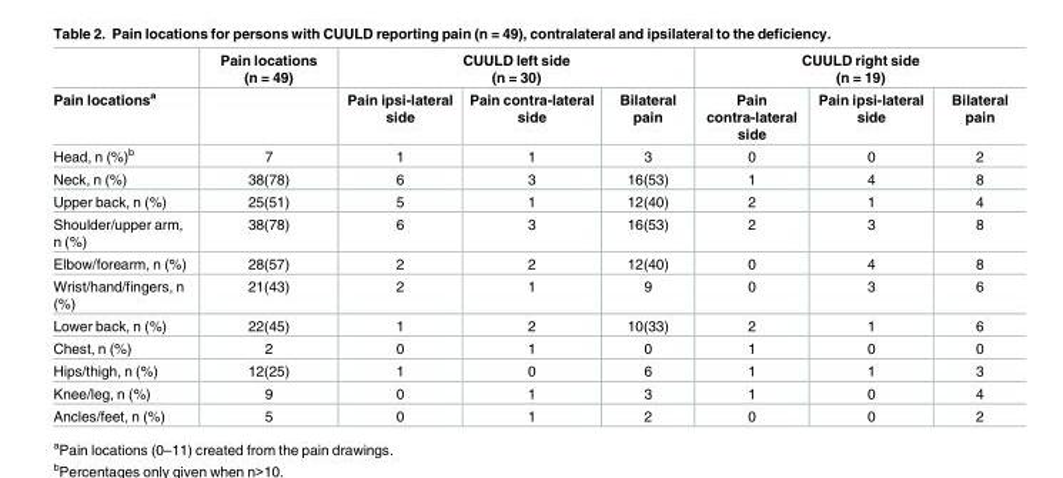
<table><thead><tr><td rowspan="2">Pain locations<sup>a</sup></td><td rowspan="2">Pain locations (n = 49)</td><td colspan="3">CUULD left side (n = 30)</td><td colspan="3">CUULD right side (n = 19)</td></tr><tr><td>Pain ipsi-lateral side</td><td>Pain contra-lateral side</td><td>Bilateral pain</td><td>Pain contra-lateral side</td><td>Pain ipsi-lateral side</td><td>Bilateral pain</td></tr></thead><tbody><tr><td>Head, n (%)<sup>b</sup></td><td>7</td><td>1</td><td>1</td><td>3</td><td>0</td><td>0</td><td>2</td></tr><tr><td>Neck, n (%)</td><td>38(78)</td><td>6</td><td>3</td><td>16(53)</td><td>1</td><td>4</td><td>8</td></tr><tr><td>Upper back, n (%)</td><td>25(51)</td><td>5</td><td>1</td><td>12(40)</td><td>2</td><td>1</td><td>4</td></tr><tr><td>Shoulder/upper arm, n (%)</td><td>38(78)</td><td>6</td><td>3</td><td>16(53)</td><td>2</td><td>3</td><td>8</td></tr><tr><td>Elbow/forearm, n (%)</td><td>28(57)</td><td>2</td><td>2</td><td>12(40)</td><td>0</td><td>4</td><td>8</td></tr><tr><td>Wrist/hand/fingers, n (%)</td><td>21(43)</td><td>2</td><td>1</td><td>9</td><td>0</td><td>3</td><td>6</td></tr><tr><td>Lower back, n (%)</td><td>22(45)</td><td>1</td><td>2</td><td>10(33)</td><td>2</td><td>1</td><td>6</td></tr><tr><td>Chest, n (%)</td><td>2</td><td>0</td><td>1</td><td>0</td><td>1</td><td>0</td><td>0</td></tr><tr><td>Hips/thigh, n (%)</td><td>12(25)</td><td>1</td><td>0</td><td>6</td><td>1</td><td>1</td><td>3</td></tr><tr><td>Knee/leg, n (%)</td><td>9</td><td>0</td><td>1</td><td>3</td><td>1</td><td>0</td><td>4</td></tr><tr><td>Ancles/feet, n (%)</td><td>5</td><td>0</td><td>1</td><td>2</td><td>0</td><td>0</td><td>2</td></tr></tbody></table>